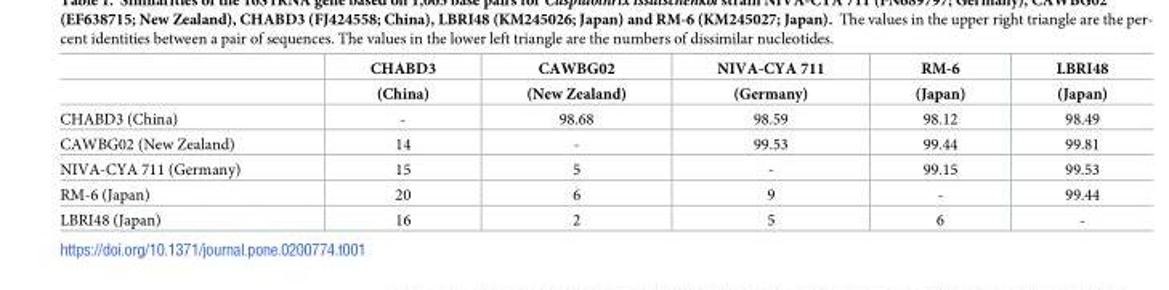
<table><thead><tr><td rowspan="2"></td><td rowspan="2">CHABD3 (China)</td><td rowspan="2">CAWBG02 (New Zealand)</td><td rowspan="2">NIVA-CYA 711 (Germany)</td><td rowspan="2">RM-6 (Japan)</td><td rowspan="2">LBRI48 (Japan)</td></tr><tr></tr></thead><tbody><tr><td>CHABD3 (China)</td><td>-</td><td>98.68</td><td>98.59</td><td>98.12</td><td>98.49</td></tr><tr><td>CAWBG02 (New Zealand)</td><td>14</td><td>-</td><td>99.53</td><td>99.44</td><td>99.81</td></tr><tr><td>NIVA-CYA 711 (Germany)</td><td>15</td><td>5</td><td>-</td><td>99.15</td><td>99.53</td></tr><tr><td>RM-6 (Japan)</td><td>20</td><td>6</td><td>9</td><td>-</td><td>99.44</td></tr><tr><td>LBRI48 (Japan)</td><td>16</td><td>2</td><td>5</td><td>6</td><td>-</td></tr></tbody></table>